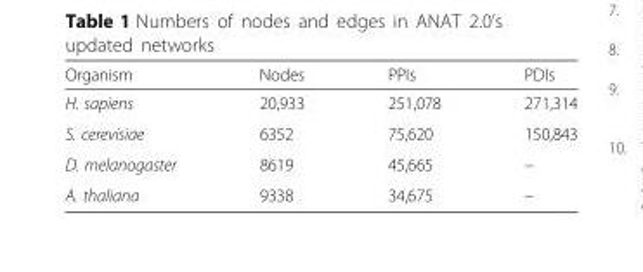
<table><thead><tr><td>Organism</td><td>Nodes</td><td>PPIs</td><td>PDIs</td></tr></thead><tbody><tr><td>H. sapiens</td><td>20,933</td><td>251,078</td><td>271,314</td></tr><tr><td>S. cerevisiae</td><td>6352</td><td>75,620</td><td>150,843</td></tr><tr><td>D. melanogaster</td><td>8619</td><td>45,665</td><td>–</td></tr><tr><td>A. thaliana</td><td>9338</td><td>34,675</td><td>–</td></tr></tbody></table>